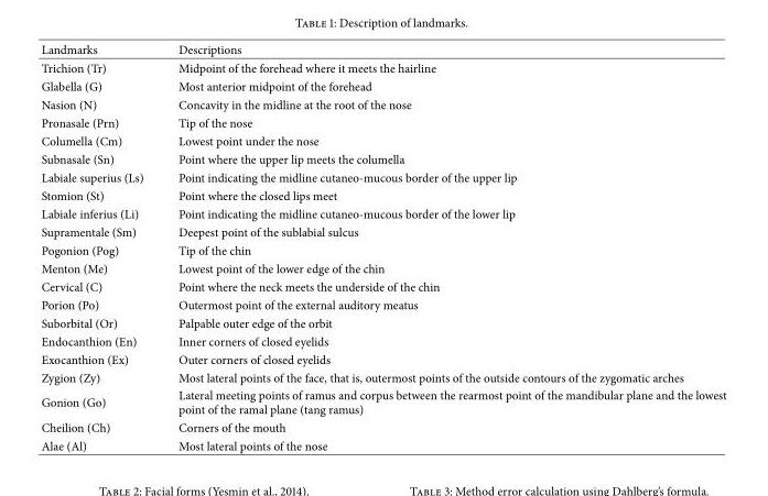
<table><thead><tr><td>Landmarks</td><td>Descriptions</td></tr></thead><tbody><tr><td>Trichion (Tr)</td><td>Midpoint of the forehead where it meets the hairline</td></tr><tr><td>Glabella (G)</td><td>Most anterior midpoint of the forehead</td></tr><tr><td>Nasion (N)</td><td>Concavity in the midline at the root of the nose</td></tr><tr><td>Pronasale (Prn)</td><td>Tip of the nose</td></tr><tr><td>Columella (Cm)</td><td>Lowest point under the nose</td></tr><tr><td>Subnasale (Sn)</td><td>Point where the upper lip meets the columella</td></tr><tr><td>Labiale superius (Ls)</td><td>Point indicating the midline cutaneo-mucous border of the upper lip</td></tr><tr><td>Stomion (St)</td><td>Point where the closed lips meet</td></tr><tr><td>Labiale inferius (Li)</td><td>Point indicating the midline cutaneo-mucous border of the lower lip</td></tr><tr><td>Supramentale (Sm)</td><td>Deepest point of the sublabial sulcus</td></tr><tr><td>Pogonion (Pog)</td><td>Tip of the chin</td></tr><tr><td>Menton (Me)</td><td>Lowest point of the lower edge of the chin</td></tr><tr><td>Cervical (C)</td><td>Point where the neck meets the underside of the chin</td></tr><tr><td>Porion (Po)</td><td>Outermost point of the external auditory meatus</td></tr><tr><td>Suborbital (Or)</td><td>Palpable outer edge of the orbit</td></tr><tr><td>Endocanthion (En)</td><td>Inner corners of closed eyelids</td></tr><tr><td>Exocanthion (Ex)</td><td>Outer corners of closed eyelids</td></tr><tr><td>Zygion (Zy)</td><td>Most lateral points of the face, that is, outermost points of the outside contours of the zygomatic arches</td></tr><tr><td>Gonion (Go)</td><td>Lateral meeting points of ramus and corpus between the rearmost point of the mandibular plane and the lowest point of the ramal plane (tang ramus)</td></tr><tr><td>Cheilion (Ch)</td><td>Corners of the mouth</td></tr><tr><td>Alae (Al)</td><td>Most lateral points of the nose</td></tr></tbody></table>